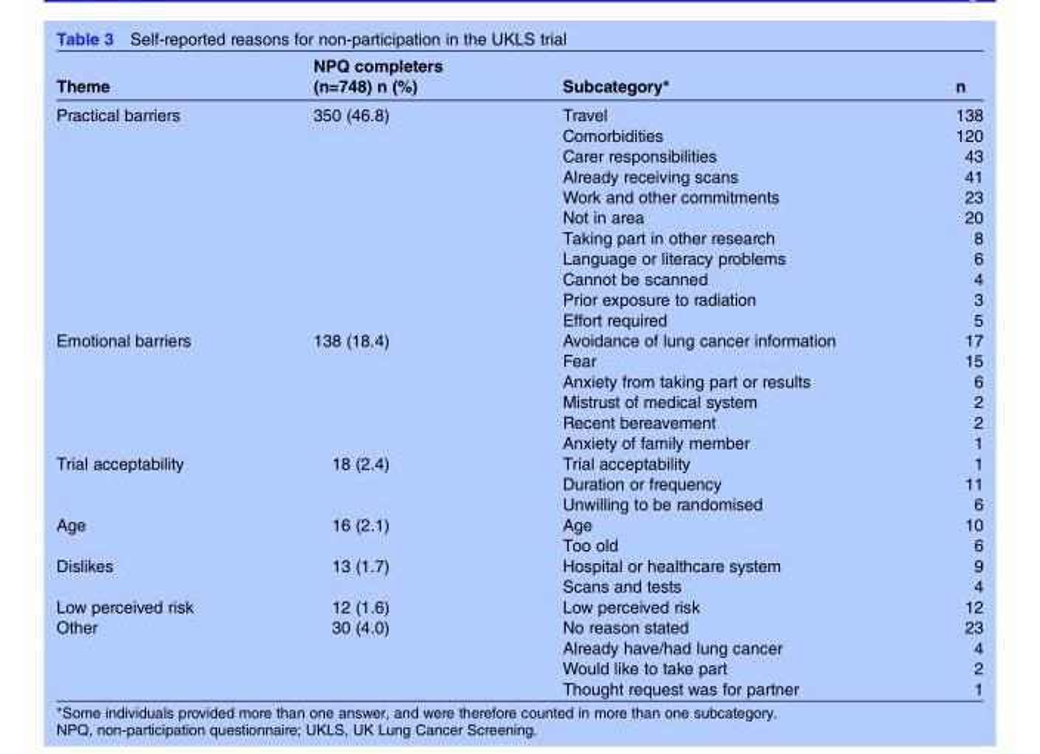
<table><thead><tr><td>Theme</td><td>NPQ completers (n=748) n (%)</td><td>Subcategory*</td><td>n</td></tr></thead><tbody><tr><td rowspan="11">Practical barriers</td><td rowspan="11">350 (46.8)</td><td>Travel</td><td>138</td></tr><tr><td>Comorbidities</td><td>120</td></tr><tr><td>Carer responsibilities</td><td>43</td></tr><tr><td>Already receiving scans</td><td>41</td></tr><tr><td>Work and other commitments</td><td>23</td></tr><tr><td>Not in area</td><td>20</td></tr><tr><td>Taking part in other research</td><td>8</td></tr><tr><td>Language or literacy problems</td><td>6</td></tr><tr><td>Cannot be scanned</td><td>4</td></tr><tr><td>Prior exposure to radiation</td><td>3</td></tr><tr><td>Effort required</td><td>5</td></tr><tr><td rowspan="6">Emotional barriers</td><td rowspan="6">138 (18.4)</td><td>Avoidance of lung cancer information</td><td>17</td></tr><tr><td>Fear</td><td>15</td></tr><tr><td>Anxiety from taking part or results</td><td>6</td></tr><tr><td>Mistrust of medical system</td><td>2</td></tr><tr><td>Recent bereavement</td><td>2</td></tr><tr><td>Anxiety of family member</td><td>1</td></tr><tr><td rowspan="3">Trial acceptability</td><td rowspan="3">18 (2.4)</td><td>Trial acceptability</td><td>1</td></tr><tr><td>Duration or frequency</td><td>11</td></tr><tr><td>Unwilling to be randomised</td><td>6</td></tr><tr><td rowspan="2">Age</td><td rowspan="2">16 (2.1)</td><td>Age</td><td>10</td></tr><tr><td>Too old</td><td>6</td></tr><tr><td rowspan="2">Dislikes</td><td rowspan="2">13 (1.7)</td><td>Hospital or healthcare system</td><td>9</td></tr><tr><td>Scans and tests</td><td>4</td></tr><tr><td>Low perceived risk</td><td>12 (1.6)</td><td>Low perceived risk</td><td>12</td></tr><tr><td rowspan="4">Other</td><td rowspan="4">30 (4.0)</td><td>No reason stated</td><td>23</td></tr><tr><td>Already have/had lung cancer</td><td>4</td></tr><tr><td>Would like to take part</td><td>2</td></tr><tr><td>Thought request was for partner</td><td>1</td></tr></tbody></table>